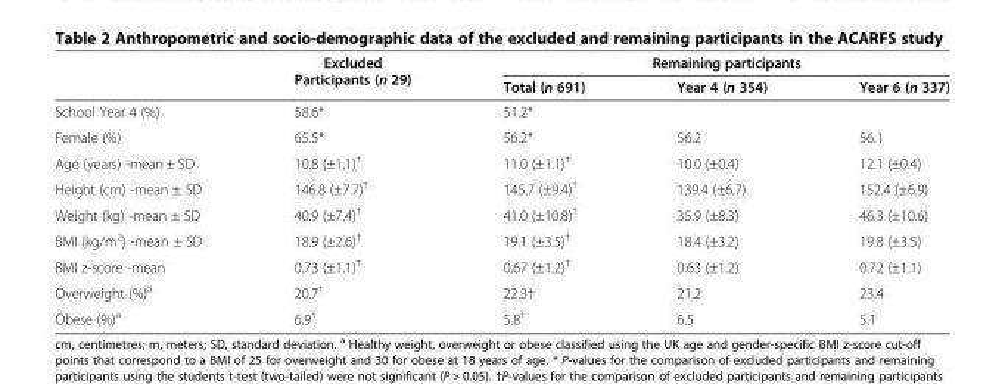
<table><thead><tr><td rowspan="2"></td><td rowspan="2">Excluded Participants (n 29)</td><td colspan="3">Remaining participants</td></tr><tr><td>Total (n 691)</td><td>Year 4 (n 354)</td><td>Year 6 (n 337)</td></tr></thead><tbody><tr><td>School Year 4 (%)</td><td>58.6*</td><td>51.2*</td><td></td><td></td></tr><tr><td>Female (%)</td><td>65.5*</td><td>56.2*</td><td>56.2</td><td>56.1</td></tr><tr><td>Age (years) -mean ± SD</td><td>10.8 (±1.1)<sup>†</sup></td><td>11.0 (±1.1)<sup>†</sup></td><td>10.0 (±0.4)</td><td>12.1 (±0.4)</td></tr><tr><td>Height (cm) -mean ± SD</td><td>146.8 (±7.7)<sup>†</sup></td><td>145.7 (±9.4)<sup>†</sup></td><td>139.4 (±6.7)</td><td>152.4 (±6.9)</td></tr><tr><td>Weight (kg) -mean ± SD</td><td>40.9 (±7.4)<sup>†</sup></td><td>41.0 (±10.8)<sup>†</sup></td><td>35.9 (±8.3)</td><td>46.3 (±10.6)</td></tr><tr><td>BMI (kg/m<sup>2</sup>) -mean ± SD</td><td>18.9 (±2.6)<sup>†</sup></td><td>19.1 (±3.5)<sup>†</sup></td><td>18.4 (±3.2)</td><td>19.8 (±3.5)</td></tr><tr><td>BMI z-score -mean</td><td>0.73 (±1.1)<sup>†</sup></td><td>0.67 (±1.2)<sup>†</sup></td><td>0.63 (±1.2)</td><td>0.72 (±1.1)</td></tr><tr><td>Overweight (%)<sup>a</sup></td><td>20.7<sup>†</sup></td><td>22.3†</td><td>21.2</td><td>23.4</td></tr><tr><td>Obese (%)<sup>a</sup></td><td>6.9<sup>†</sup></td><td>5.8<sup>†</sup></td><td>6.5</td><td>5.1</td></tr></tbody></table>